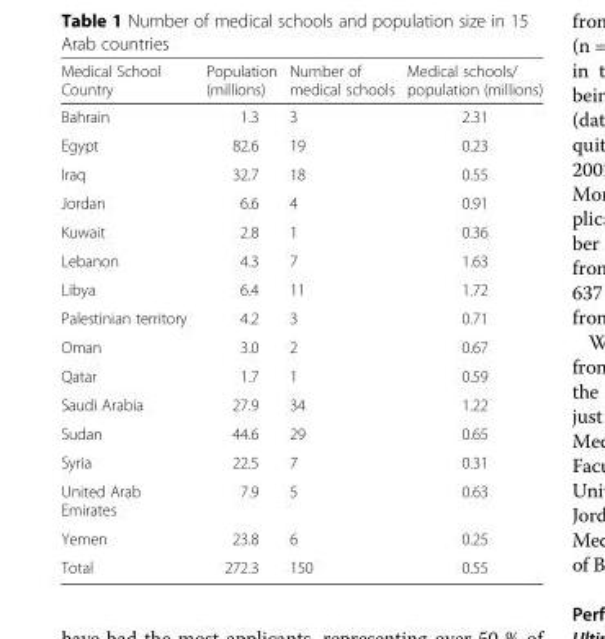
<table><thead><tr><td>Medical School Country</td><td>Population (millions)</td><td>Number of medical schools</td><td>Medical schools/ population (millions)</td></tr></thead><tbody><tr><td>Bahrain</td><td>1.3</td><td>3</td><td>2.31</td></tr><tr><td>Egypt</td><td>82.6</td><td>19</td><td>0.23</td></tr><tr><td>Iraq</td><td>32.7</td><td>18</td><td>0.55</td></tr><tr><td>Jordan</td><td>6.6</td><td>4</td><td>0.91</td></tr><tr><td>Kuwait</td><td>2.8</td><td>1</td><td>0.36</td></tr><tr><td>Lebanon</td><td>4.3</td><td>7</td><td>1.63</td></tr><tr><td>Libya</td><td>6.4</td><td>11</td><td>1.72</td></tr><tr><td>Palestinian territory</td><td>4.2</td><td>3</td><td>0.71</td></tr><tr><td>Oman</td><td>3.0</td><td>2</td><td>0.67</td></tr><tr><td>Qatar</td><td>1.7</td><td>1</td><td>0.59</td></tr><tr><td>Saudi Arabia</td><td>27.9</td><td>34</td><td>1.22</td></tr><tr><td>Sudan</td><td>44.6</td><td>29</td><td>0.65</td></tr><tr><td>Syria</td><td>22.5</td><td>7</td><td>0.31</td></tr><tr><td>United Arab Emirates</td><td>7.9</td><td>5</td><td>0.63</td></tr><tr><td>Yemen</td><td>23.8</td><td>6</td><td>0.25</td></tr><tr><td>Total</td><td>272.3</td><td>150</td><td>0.55</td></tr></tbody></table>